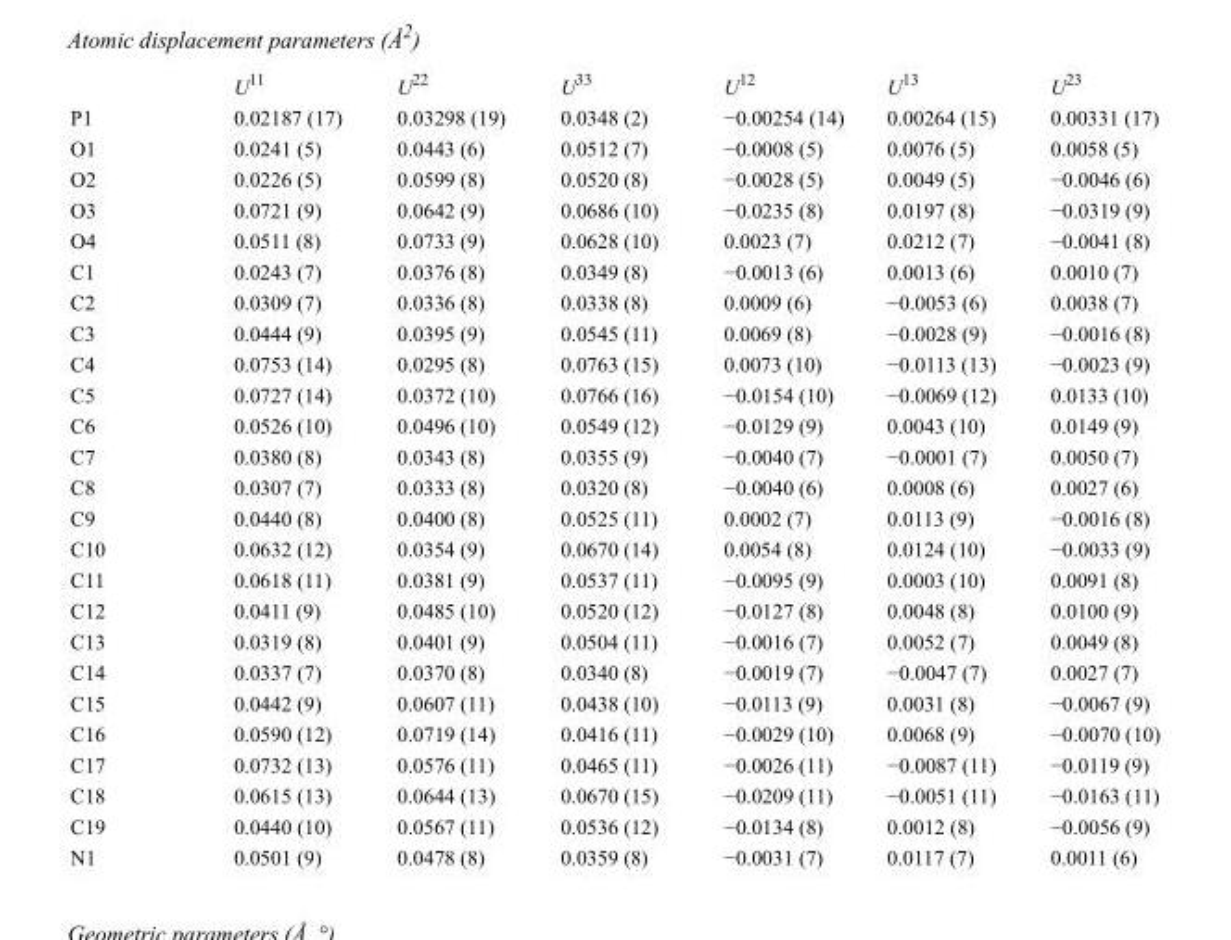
<table><thead><tr><td></td><td>U<sup>11</sup></td><td>U<sup>22</sup></td><td>U<sup>33</sup></td><td>U<sup>12</sup></td><td>U<sup>13</sup></td><td>U<sup>23</sup></td></tr></thead><tbody><tr><td>P1</td><td>0.02187 (17)</td><td>0.03298 (19)</td><td>0.0348 (2)</td><td>−0.00254 (14)</td><td>0.00264 (15)</td><td>0.00331 (17)</td></tr><tr><td>O1</td><td>0.0241 (5)</td><td>0.0443 (6)</td><td>0.0512 (7)</td><td>−0.0008 (5)</td><td>0.0076 (5)</td><td>0.0058 (5)</td></tr><tr><td>O2</td><td>0.0226 (5)</td><td>0.0599 (8)</td><td>0.0520 (8)</td><td>−0.0028 (5)</td><td>0.0049 (5)</td><td>−0.0046 (6)</td></tr><tr><td>O3</td><td>0.0721 (9)</td><td>0.0642 (9)</td><td>0.0686 (10)</td><td>−0.0235 (8)</td><td>0.0197 (8)</td><td>−0.0319 (9)</td></tr><tr><td>O4</td><td>0.0511 (8)</td><td>0.0733 (9)</td><td>0.0628 (10)</td><td>0.0023 (7)</td><td>0.0212 (7)</td><td>−0.0041 (8)</td></tr><tr><td>C1</td><td>0.0243 (7)</td><td>0.0376 (8)</td><td>0.0349 (8)</td><td>−0.0013 (6)</td><td>0.0013 (6)</td><td>0.0010 (7)</td></tr><tr><td>C2</td><td>0.0309 (7)</td><td>0.0336 (8)</td><td>0.0338 (8)</td><td>0.0009 (6)</td><td>−0.0053 (6)</td><td>0.0038 (7)</td></tr><tr><td>C3</td><td>0.0444 (9)</td><td>0.0395 (9)</td><td>0.0545 (11)</td><td>0.0069 (8)</td><td>−0.0028 (9)</td><td>−0.0016 (8)</td></tr><tr><td>C4</td><td>0.0753 (14)</td><td>0.0295 (8)</td><td>0.0763 (15)</td><td>0.0073 (10)</td><td>−0.0113 (13)</td><td>−0.0023 (9)</td></tr><tr><td>C5</td><td>0.0727 (14)</td><td>0.0372 (10)</td><td>0.0766 (16)</td><td>−0.0154 (10)</td><td>−0.0069 (12)</td><td>0.0133 (10)</td></tr><tr><td>C6</td><td>0.0526 (10)</td><td>0.0496 (10)</td><td>0.0549 (12)</td><td>−0.0129 (9)</td><td>0.0043 (10)</td><td>0.0149 (9)</td></tr><tr><td>C7</td><td>0.0380 (8)</td><td>0.0343 (8)</td><td>0.0355 (9)</td><td>−0.0040 (7)</td><td>−0.0001 (7)</td><td>0.0050 (7)</td></tr><tr><td>C8</td><td>0.0307 (7)</td><td>0.0333 (8)</td><td>0.0320 (8)</td><td>−0.0040 (6)</td><td>0.0008 (6)</td><td>0.0027 (6)</td></tr><tr><td>C9</td><td>0.0440 (8)</td><td>0.0400 (8)</td><td>0.0525 (11)</td><td>0.0002 (7)</td><td>0.0113 (9)</td><td>−0.0016 (8)</td></tr><tr><td>C10</td><td>0.0632 (12)</td><td>0.0354 (9)</td><td>0.0670 (14)</td><td>0.0054 (8)</td><td>0.0124 (10)</td><td>−0.0033 (9)</td></tr><tr><td>C11</td><td>0.0618 (11)</td><td>0.0381 (9)</td><td>0.0537 (11)</td><td>−0.0095 (9)</td><td>0.0003 (10)</td><td>0.0091 (8)</td></tr><tr><td>C12</td><td>0.0411 (9)</td><td>0.0485 (10)</td><td>0.0520 (12)</td><td>−0.0127 (8)</td><td>0.0048 (8)</td><td>0.0100 (9)</td></tr><tr><td>C13</td><td>0.0319 (8)</td><td>0.0401 (9)</td><td>0.0504 (11)</td><td>−0.0016 (7)</td><td>0.0052 (7)</td><td>0.0049 (8)</td></tr><tr><td>C14</td><td>0.0337 (7)</td><td>0.0370 (8)</td><td>0.0340 (8)</td><td>−0.0019 (7)</td><td>−0.0047 (7)</td><td>0.0027 (7)</td></tr><tr><td>C15</td><td>0.0442 (9)</td><td>0.0607 (11)</td><td>0.0438 (10)</td><td>−0.0113 (9)</td><td>0.0031 (8)</td><td>−0.0067 (9)</td></tr><tr><td>C16</td><td>0.0590 (12)</td><td>0.0719 (14)</td><td>0.0416 (11)</td><td>−0.0029 (10)</td><td>0.0068 (9)</td><td>−0.0070 (10)</td></tr><tr><td>C17</td><td>0.0732 (13)</td><td>0.0576 (11)</td><td>0.0465 (11)</td><td>−0.0026 (11)</td><td>−0.0087 (11)</td><td>−0.0119 (9)</td></tr><tr><td>C18</td><td>0.0615 (13)</td><td>0.0644 (13)</td><td>0.0670 (15)</td><td>−0.0209 (11)</td><td>−0.0051 (11)</td><td>−0.0163 (11)</td></tr><tr><td>C19</td><td>0.0440 (10)</td><td>0.0567 (11)</td><td>0.0536 (12)</td><td>−0.0134 (8)</td><td>0.0012 (8)</td><td>−0.0056 (9)</td></tr><tr><td>N1</td><td>0.0501 (9)</td><td>0.0478 (8)</td><td>0.0359 (8)</td><td>−0.0031 (7)</td><td>0.0117 (7)</td><td>0.0011 (6)</td></tr></tbody></table>